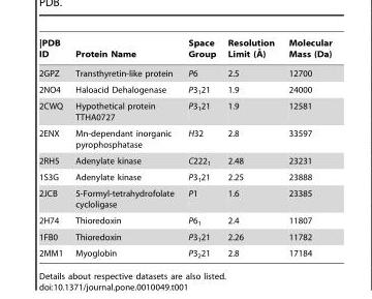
<table><thead><tr><td>|PDB ID</td><td>Protein Name</td><td>Space Group</td><td>Resolution Limit (A˚ )</td><td>Molecular Mass (Da)</td></tr></thead><tbody><tr><td>2GPZ</td><td>Transthyretin-like protein</td><td>P6</td><td>2.5</td><td>12700</td></tr><tr><td>2NO4</td><td>Haloacid Dehalogenase</td><td>P3<sub>1</sub>21</td><td>1.9</td><td>24000</td></tr><tr><td>2CWQ</td><td>Hypothetical protein TTHA0727</td><td>P3<sub>1</sub>21</td><td>1.9</td><td>12581</td></tr><tr><td>2ENX</td><td>Mn-dependant inorganic pyrophosphatase</td><td>H32</td><td>2.8</td><td>33597</td></tr><tr><td>2RH5</td><td>Adenylate kinase</td><td>C222<sub>1</sub></td><td>2.48</td><td>23231</td></tr><tr><td>1S3G</td><td>Adenylate kinase</td><td>P3<sub>1</sub>21</td><td>2.25</td><td>23888</td></tr><tr><td>2JCB</td><td>5-Formyl-tetrahydrofolate cycloligase</td><td>P1</td><td>1.6</td><td>23385</td></tr><tr><td>2H74</td><td>Thioredoxin</td><td>P6<sub>1</sub></td><td>2.4</td><td>11807</td></tr><tr><td>1FB0</td><td>Thioredoxin</td><td>P3<sub>1</sub>21</td><td>2.26</td><td>11782</td></tr><tr><td>2MM1</td><td>Myoglobin</td><td>P3<sub>2</sub>21</td><td>2.8</td><td>17184</td></tr></tbody></table>